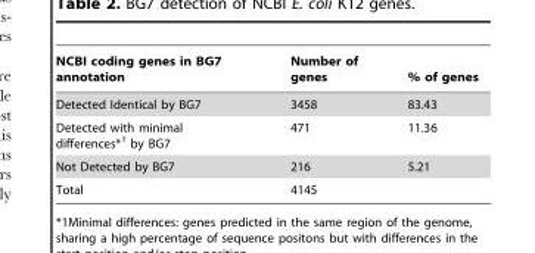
<table><thead><tr><td>NCBI coding genes in BG7 annotation</td><td>Number of genes</td><td>% of genes</td></tr></thead><tbody><tr><td>Detected Identical by BG7</td><td>3458</td><td>83.43</td></tr><tr><td>Detected with minimal differences*1 by BG7</td><td>471</td><td>11.36</td></tr><tr><td>Not Detected by BG7</td><td>216</td><td>5.21</td></tr><tr><td>Total</td><td>4145</td><td></td></tr></tbody></table>